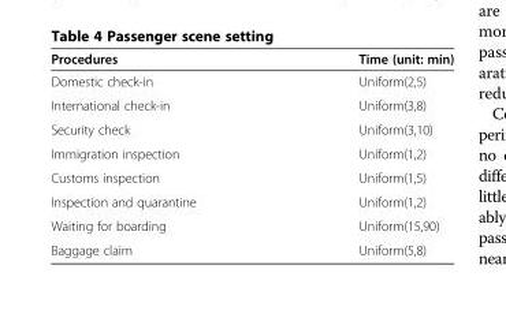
<table><thead><tr><td>Procedures</td><td>Time (unit: min)</td></tr></thead><tbody><tr><td>Domestic check-in</td><td>Uniform(2,5)</td></tr><tr><td>International check-in</td><td>Uniform(3,8)</td></tr><tr><td>Security check</td><td>Uniform(3,10)</td></tr><tr><td>Immigration inspection</td><td>Uniform(1,2)</td></tr><tr><td>Customs inspection</td><td>Uniform(1,5)</td></tr><tr><td>Inspection and quarantine</td><td>Uniform(1,2)</td></tr><tr><td>Waiting for boarding</td><td>Uniform(15,90)</td></tr><tr><td>Baggage claim</td><td>Uniform(5,8)</td></tr></tbody></table>